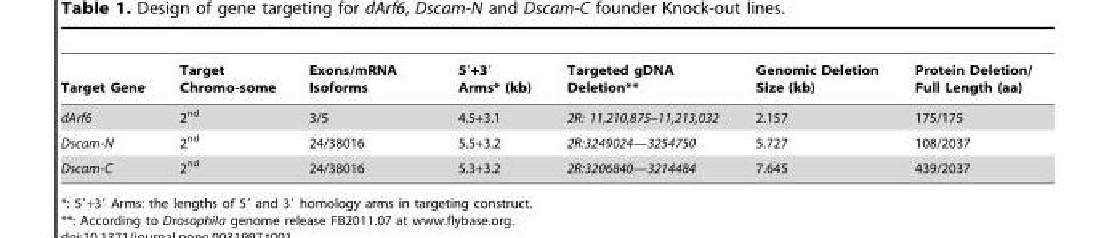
<table><thead><tr><td>Target Gene</td><td>Target Chromo-some</td><td>Exons/mRNA Isoforms</td><td>5′+3′ Arms* (kb)</td><td>Targeted gDNA Deletion**</td><td>Genomic Deletion Size (kb)</td><td>Protein Deletion/ Full Length (aa)</td></tr></thead><tbody><tr><td>dArf6</td><td>2<sup>nd</sup></td><td>3/5</td><td>4.5+3.1</td><td>2R: 11,210,875–11,213,032</td><td>2.157</td><td>175/175</td></tr><tr><td>Dscam-N</td><td>2<sup>nd</sup></td><td>24/38016</td><td>5.5+3.2</td><td>2R:3249024—3254750</td><td>5.727</td><td>108/2037</td></tr><tr><td>Dscam-C</td><td>2<sup>nd</sup></td><td>24/38016</td><td>5.3+3.2</td><td>2R:3206840—3214484</td><td>7.645</td><td>439/2037</td></tr></tbody></table>